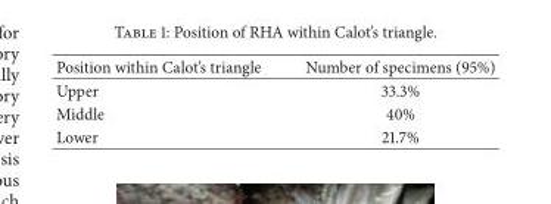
<table><thead><tr><td>Position within Calot’s triangle</td><td>Number of specimens (95%)</td></tr></thead><tbody><tr><td>Upper</td><td>33.3%</td></tr><tr><td>Middle</td><td>40%</td></tr><tr><td>Lower</td><td>21.7%</td></tr></tbody></table>